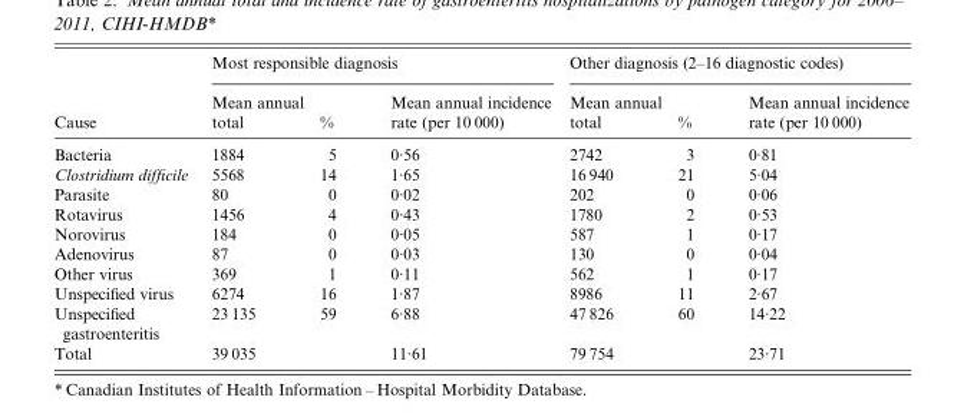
<table><thead><tr><td rowspan="2">Cause</td><td colspan="3">Most responsible diagnosis</td><td colspan="3">Other diagnosis (2–16 diagnostic codes)</td></tr><tr><td>Mean annual total</td><td>%</td><td>Mean annual incidence rate (per 10 000)</td><td>Mean annual total</td><td>%</td><td>Mean annual incidence rate (per 10 000)</td></tr></thead><tbody><tr><td>Bacteria</td><td>1884</td><td>5</td><td>0·56</td><td>2742</td><td>3</td><td>0·81</td></tr><tr><td>Clostridium difficile</td><td>5568</td><td>14</td><td>1·65</td><td>16 940</td><td>21</td><td>5·04</td></tr><tr><td>Parasite</td><td>80</td><td>0</td><td>0·02</td><td>202</td><td>0</td><td>0·06</td></tr><tr><td>Rotavirus</td><td>1456</td><td>4</td><td>0·43</td><td>1780</td><td>2</td><td>0·53</td></tr><tr><td>Norovirus</td><td>184</td><td>0</td><td>0·05</td><td>587</td><td>1</td><td>0·17</td></tr><tr><td>Adenovirus</td><td>87</td><td>0</td><td>0·03</td><td>130</td><td>0</td><td>0·04</td></tr><tr><td>Other virus</td><td>369</td><td>1</td><td>0·11</td><td>562</td><td>1</td><td>0·17</td></tr><tr><td>Unspecified virus</td><td>6274</td><td>16</td><td>1·87</td><td>8986</td><td>11</td><td>2·67</td></tr><tr><td>Unspecified gastroenteritis</td><td>23 135</td><td>59</td><td>6·88</td><td>47 826</td><td>60</td><td>14·22</td></tr><tr><td>Total</td><td>39 035</td><td></td><td>11·61</td><td>79 754</td><td></td><td>23·71</td></tr></tbody></table>